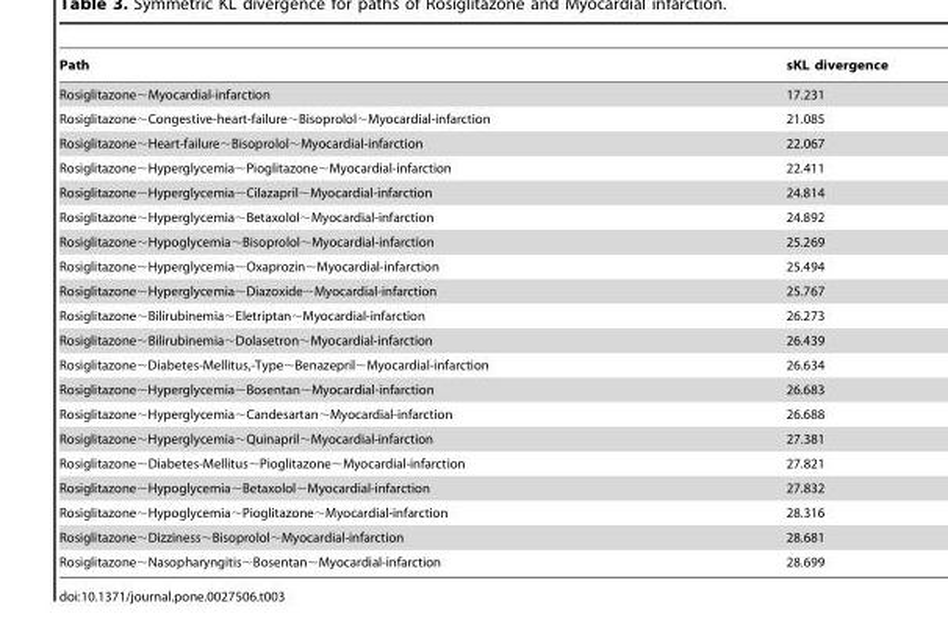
<table><thead><tr><td>Path</td><td>sKL divergence</td></tr></thead><tbody><tr><td>Rosiglitazone∼Myocardial-infarction</td><td>17.231</td></tr><tr><td>Rosiglitazone∼Congestive-heart-failure∼Bisoprolol∼Myocardial-infarction</td><td>21.085</td></tr><tr><td>Rosiglitazone∼Heart-failure∼Bisoprolol∼Myocardial-infarction</td><td>22.067</td></tr><tr><td>Rosiglitazone∼Hyperglycemia∼Pioglitazone∼Myocardial-infarction</td><td>22.411</td></tr><tr><td>Rosiglitazone∼Hyperglycemia∼Cilazapril∼Myocardial-infarction</td><td>24.814</td></tr><tr><td>Rosiglitazone∼Hyperglycemia∼Betaxolol∼Myocardial-infarction</td><td>24.892</td></tr><tr><td>Rosiglitazone∼Hypoglycemia∼Bisoprolol∼Myocardial-infarction</td><td>25.269</td></tr><tr><td>Rosiglitazone∼Hyperglycemia∼Oxaprozin∼Myocardial-infarction</td><td>25.494</td></tr><tr><td>Rosiglitazone∼Hyperglycemia∼Diazoxide∼Myocardial-infarction</td><td>25.767</td></tr><tr><td>Rosiglitazone∼Bilirubinemia∼Eletriptan∼Myocardial-infarction</td><td>26.273</td></tr><tr><td>Rosiglitazone∼Bilirubinemia∼Dolasetron∼Myocardial-infarction</td><td>26.439</td></tr><tr><td>Rosiglitazone∼Diabetes-Mellitus,-Type∼Benazepril∼Myocardial-infarction</td><td>26.634</td></tr><tr><td>Rosiglitazone∼Hyperglycemia∼Bosentan∼Myocardial-infarction</td><td>26.683</td></tr><tr><td>Rosiglitazone∼Hyperglycemia∼Candesartan∼Myocardial-infarction</td><td>26.688</td></tr><tr><td>Rosiglitazone∼Hyperglycemia∼Quinapril∼Myocardial-infarction</td><td>27.381</td></tr><tr><td>Rosiglitazone∼Diabetes-Mellitus∼Pioglitazone∼Myocardial-infarction</td><td>27.821</td></tr><tr><td>Rosiglitazone∼Hypoglycemia∼Betaxolol∼Myocardial-infarction</td><td>27.832</td></tr><tr><td>Rosiglitazone∼Hypoglycemia∼Pioglitazone∼Myocardial-infarction</td><td>28.316</td></tr><tr><td>Rosiglitazone∼Dizziness∼Bisoprolol∼Myocardial-infarction</td><td>28.681</td></tr><tr><td>Rosiglitazone∼Nasopharyngitis∼Bosentan∼Myocardial-infarction</td><td>28.699</td></tr></tbody></table>